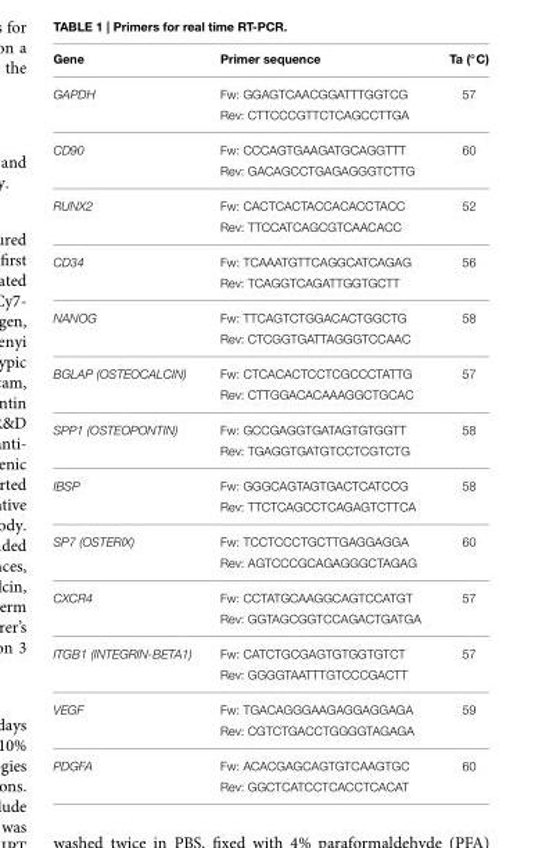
<table><thead><tr><td>Gene</td><td>Primer sequence</td><td>Ta (◦C)</td></tr></thead><tbody><tr><td rowspan="2">GAPDH</td><td>Fw: GGAGTCAACGGATTTGGTCG</td><td>57</td></tr><tr><td>Rev: CTTCCCGTTCTCAGCCTTGA</td><td></td></tr><tr><td rowspan="2">CD90</td><td>Fw: CCCAGTGAAGATGCAGGTTT</td><td>60</td></tr><tr><td>Rev: GACAGCCTGAGAGGGTCTTG</td><td></td></tr><tr><td rowspan="2">RUNX2</td><td>Fw: CACTCACTACCACACCTACC</td><td>52</td></tr><tr><td>Rev: TTCCATCAGCGTCAACACC</td><td></td></tr><tr><td rowspan="2">CD34</td><td>Fw: TCAAATGTTCAGGCATCAGAG</td><td>56</td></tr><tr><td>Rev: TCAGGTCAGATTGGTGCTT</td><td></td></tr><tr><td rowspan="2">NANOG</td><td>Fw: TTCAGTCTGGACACTGGCTG</td><td>58</td></tr><tr><td>Rev: CTCGGTGATTAGGGTCCAAC</td><td></td></tr><tr><td rowspan="2">BGLAP (OSTEOCALCIN)</td><td>Fw: CTCACACTCCTCGCCCTATTG</td><td>57</td></tr><tr><td>Rev: CTTGGACACAAAGGCTGCAC</td><td></td></tr><tr><td rowspan="2">SPP1 (OSTEOPONTIN)</td><td>Fw: GCCGAGGTGATAGTGTGGTT</td><td>58</td></tr><tr><td>Rev: TGAGGTGATGTCCTCGTCTG</td><td></td></tr><tr><td rowspan="2">IBSP</td><td>Fw: GGGCAGTAGTGACTCATCCG</td><td>58</td></tr><tr><td>Rev: TTCTCAGCCTCAGAGTCTTCA</td><td></td></tr><tr><td rowspan="2">SP7 (OSTERIX)</td><td>Fw: TCCTCCCTGCTTGAGGAGGA</td><td>60</td></tr><tr><td>Rev: AGTCCCGCAGAGGGCTAGAG</td><td></td></tr><tr><td rowspan="2">CXCR4</td><td>Fw: CCTATGCAAGGCAGTCCATGT</td><td>57</td></tr><tr><td>Rev: GGTAGCGGTCCAGACTGATGA</td><td></td></tr><tr><td rowspan="2">ITGB1 (INTEGRIN-BETA1)</td><td>Fw: CATCTGCGAGTGTGGTGTCT</td><td>57</td></tr><tr><td>Rev: GGGGTAATTTGTCCCGACTT</td><td></td></tr><tr><td rowspan="2">VEGF</td><td>Fw: TGACAGGGAAGAGGAGGAGA</td><td>59</td></tr><tr><td>Rev: CGTCTGACCTGGGGTAGAGA</td><td></td></tr><tr><td rowspan="2">PDGFA</td><td>Fw: ACACGAGCAGTGTCAAGTGC</td><td>60</td></tr><tr><td>Rev: GGCTCATCCTCACCTCACAT</td><td></td></tr></tbody></table>